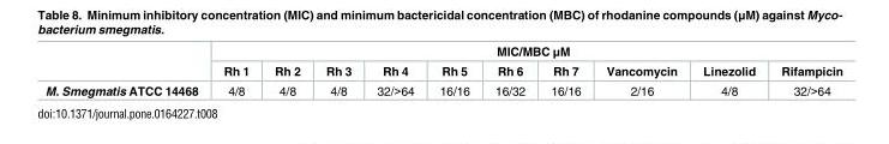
<table><thead><tr><td rowspan="2"></td><td colspan="10">MIC/MBC μM</td></tr><tr><td>Rh 1</td><td>Rh 2</td><td>Rh 3</td><td>Rh 4</td><td>Rh 5</td><td>Rh 6</td><td>Rh 7</td><td>Vancomycin</td><td>Linezolid</td><td>Rifampicin</td></tr></thead><tbody><tr><td>M. Smegmatis ATCC 14468</td><td>4/8</td><td>4/8</td><td>4/8</td><td>32/&gt;64</td><td>16/16</td><td>16/32</td><td>16/16</td><td>2/16</td><td>4/8</td><td>32/&gt;64</td></tr></tbody></table>